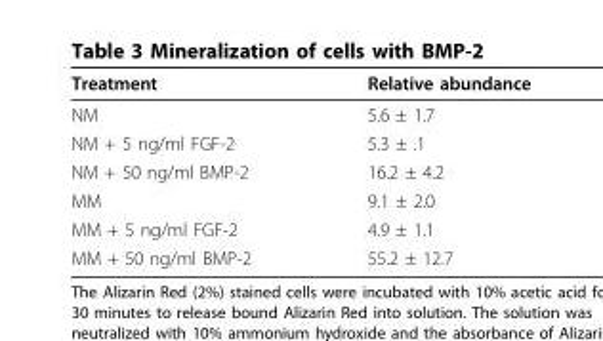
<table><thead><tr><td>Treatment</td><td>Relative abundance</td></tr></thead><tbody><tr><td>NM</td><td>5.6 ± 1.7</td></tr><tr><td>NM + 5 ng/ml FGF-2</td><td>5.3 ± .1</td></tr><tr><td>NM + 50 ng/ml BMP-2</td><td>16.2 ± 4.2</td></tr><tr><td>MM</td><td>9.1 ± 2.0</td></tr><tr><td>MM + 5 ng/ml FGF-2</td><td>4.9 ± 1.1</td></tr><tr><td>MM + 50 ng/ml BMP-2</td><td>55.2 ± 12.7</td></tr></tbody></table>